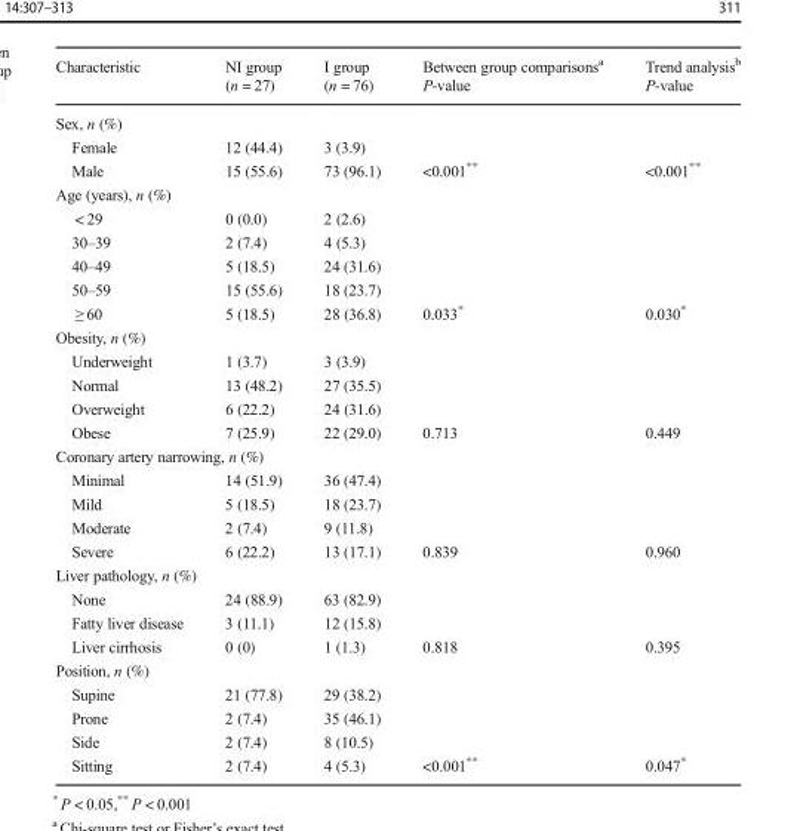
<table><thead><tr><td rowspan="2">Characteristic</td><td rowspan="2">NI group (n = 27)</td><td rowspan="2">I group (n = 76)</td><td rowspan="2">Between group comparisons<sup>a</sup> P-value</td><td rowspan="2">Trend analysis<sup>b</sup> P-value</td></tr><tr></tr></thead><tbody><tr><td colspan="5">Sex, n (%)</td></tr><tr><td>Female</td><td>12 (44.4)</td><td>3 (3.9)</td><td></td><td></td></tr><tr><td>Male</td><td>15 (55.6)</td><td>73 (96.1)</td><td>&lt;0.001**</td><td>&lt;0.001**</td></tr><tr><td colspan="5">Age (years), n (%)</td></tr><tr><td>&lt; 29</td><td>0 (0.0)</td><td>2 (2.6)</td><td></td><td></td></tr><tr><td>30–39</td><td>2 (7.4)</td><td>4 (5.3)</td><td></td><td></td></tr><tr><td>40–49</td><td>5 (18.5)</td><td>24 (31.6)</td><td></td><td></td></tr><tr><td>50–59</td><td>15 (55.6)</td><td>18 (23.7)</td><td></td><td></td></tr><tr><td>≥ 60</td><td>5 (18.5)</td><td>28 (36.8)</td><td>0.033*</td><td>0.030*</td></tr><tr><td colspan="5">Obesity, n (%)</td></tr><tr><td>Underweight</td><td>1 (3.7)</td><td>3 (3.9)</td><td></td><td></td></tr><tr><td>Normal</td><td>13 (48.2)</td><td>27 (35.5)</td><td></td><td></td></tr><tr><td>Overweight</td><td>6 (22.2)</td><td>24 (31.6)</td><td></td><td></td></tr><tr><td>Obese</td><td>7 (25.9)</td><td>22 (29.0)</td><td>0.713</td><td>0.449</td></tr><tr><td colspan="5">Coronary artery narrowing, n (%)</td></tr><tr><td>Minimal</td><td>14 (51.9)</td><td>36 (47.4)</td><td></td><td></td></tr><tr><td>Mild</td><td>5 (18.5)</td><td>18 (23.7)</td><td></td><td></td></tr><tr><td>Moderate</td><td>2 (7.4)</td><td>9 (11.8)</td><td></td><td></td></tr><tr><td>Severe</td><td>6 (22.2)</td><td>13 (17.1)</td><td>0.839</td><td>0.960</td></tr><tr><td colspan="5">Liver pathology, n (%)</td></tr><tr><td>None</td><td>24 (88.9)</td><td>63 (82.9)</td><td></td><td></td></tr><tr><td>Fatty liver disease</td><td>3 (11.1)</td><td>12 (15.8)</td><td></td><td></td></tr><tr><td>Liver cirrhosis</td><td>0 (0)</td><td>1 (1.3)</td><td>0.818</td><td>0.395</td></tr><tr><td colspan="5">Position, n (%)</td></tr><tr><td>Supine</td><td>21 (77.8)</td><td>29 (38.2)</td><td></td><td></td></tr><tr><td>Prone</td><td>2 (7.4)</td><td>35 (46.1)</td><td></td><td></td></tr><tr><td>Side</td><td>2 (7.4)</td><td>8 (10.5)</td><td></td><td></td></tr><tr><td>Sitting</td><td>2 (7.4)</td><td>4 (5.3)</td><td>&lt;0.001**</td><td>0.047*</td></tr></tbody></table>